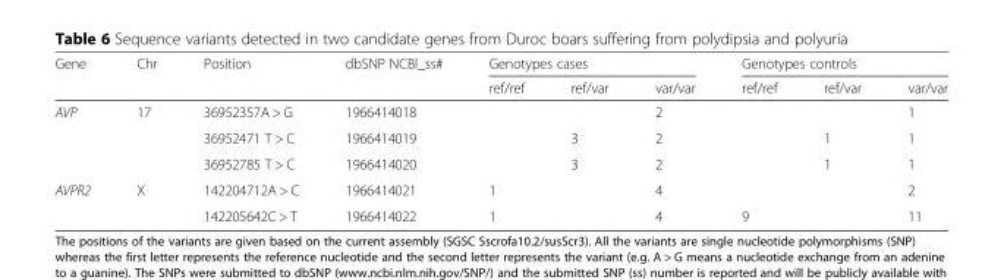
<table><thead><tr><td rowspan="2">Gene</td><td rowspan="2">Chr</td><td rowspan="2">Position</td><td rowspan="2">dbSNP NCBI_ss#</td><td colspan="3">Genotypes cases</td><td colspan="3">Genotypes controls</td></tr><tr><td>ref/ref</td><td>ref/var</td><td>var/var</td><td>ref/ref</td><td>ref/var</td><td>var/var</td></tr></thead><tbody><tr><td rowspan="3">AVP</td><td rowspan="3">17</td><td>36952357A &gt; G</td><td>1966414018</td><td></td><td></td><td>2</td><td></td><td></td><td>1</td></tr><tr><td>36952471 T &gt; C</td><td>1966414019</td><td></td><td>3</td><td>2</td><td></td><td>1</td><td>1</td></tr><tr><td>36952785 T &gt; C</td><td>1966414020</td><td></td><td>3</td><td>2</td><td></td><td>1</td><td>1</td></tr><tr><td rowspan="2">AVPR2</td><td rowspan="2">X</td><td>142204712A &gt; C</td><td>1966414021</td><td>1</td><td></td><td>4</td><td></td><td></td><td>2</td></tr><tr><td>142205642C &gt; T</td><td>1966414022</td><td>1</td><td></td><td>4</td><td>9</td><td></td><td>11</td></tr></tbody></table>